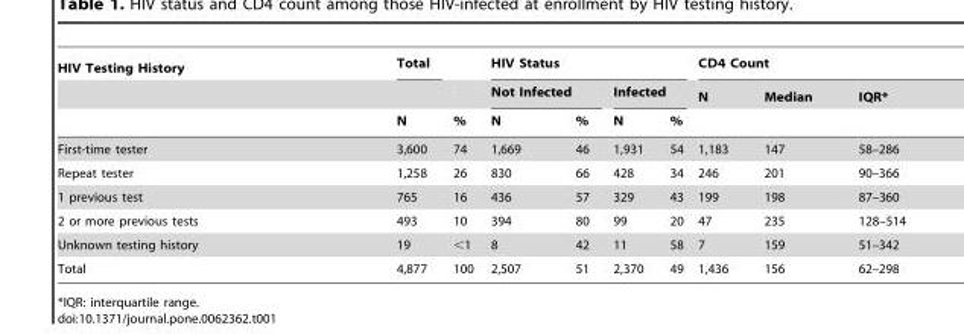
<table><thead><tr><td rowspan="3">HIV Testing History</td><td rowspan="3">Total N</td><td rowspan="3">%</td><td colspan="4">HIV Status</td><td colspan="3">CD4 Count</td></tr><tr><td colspan="2">Not Infected</td><td colspan="2">Infected</td><td rowspan="2">N</td><td rowspan="2">Median</td><td rowspan="2">IQR*</td></tr><tr><td>N</td><td>%</td><td>N</td><td>%</td></tr></thead><tbody><tr><td>First-time tester</td><td>3,600</td><td>74</td><td>1,669</td><td>46</td><td>1,931</td><td>54</td><td>1,183</td><td>147</td><td>58–286</td></tr><tr><td>Repeat tester</td><td>1,258</td><td>26</td><td>830</td><td>66</td><td>428</td><td>34</td><td>246</td><td>201</td><td>90–366</td></tr><tr><td>1 previous test</td><td>765</td><td>16</td><td>436</td><td>57</td><td>329</td><td>43</td><td>199</td><td>198</td><td>87–360</td></tr><tr><td>2 or more previous tests</td><td>493</td><td>10</td><td>394</td><td>80</td><td>99</td><td>20</td><td>47</td><td>235</td><td>128–514</td></tr><tr><td>Unknown testing history</td><td>19</td><td>&lt;1</td><td>8</td><td>42</td><td>11</td><td>58</td><td>7</td><td>159</td><td>51–342</td></tr><tr><td>Total</td><td>4,877</td><td>100</td><td>2,507</td><td>51</td><td>2,370</td><td>49</td><td>1,436</td><td>156</td><td>62–298</td></tr></tbody></table>